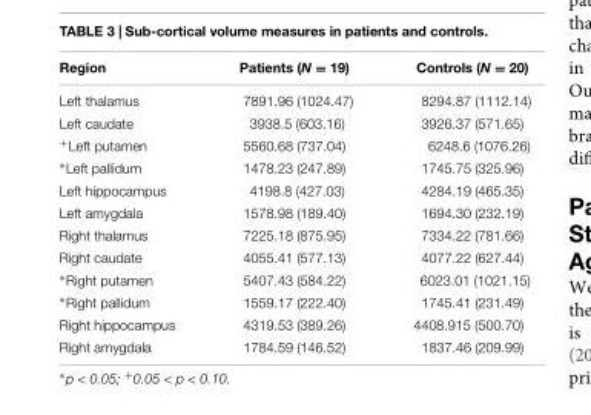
<table><thead><tr><td>Region</td><td>Patients (N = 19)</td><td>Controls (N = 20)</td></tr></thead><tbody><tr><td>Left thalamus</td><td>7891.96 (1024.47)</td><td>8294.87 (1112.14)</td></tr><tr><td>Left caudate</td><td>3938.5 (603.16)</td><td>3926.37 (571.65)</td></tr><tr><td><sup>+</sup>Left putamen</td><td>5560.68 (737.04)</td><td>6248.6 (1076.26)</td></tr><tr><td>∗Left pallidum</td><td>1478.23 (247.89)</td><td>1745.75 (325.96)</td></tr><tr><td>Left hippocampus</td><td>4198.8 (427.03)</td><td>4284.19 (465.35)</td></tr><tr><td>Left amygdala</td><td>1578.98 (189.40)</td><td>1694.30 (232.19)</td></tr><tr><td>Right thalamus</td><td>7225.18 (875.95)</td><td>7334.22 (781.66)</td></tr><tr><td>Right caudate</td><td>4055.41 (577.13)</td><td>4077.22 (627.44)</td></tr><tr><td>∗Right putamen</td><td>5407.43 (584.22)</td><td>6023.01 (1021.15)</td></tr><tr><td>∗Right pallidum</td><td>1559.17 (222.40)</td><td>1745.41 (231.49)</td></tr><tr><td>Right hippocampus</td><td>4319.53 (389.26)</td><td>4408.915 (500.70)</td></tr><tr><td>Right amygdala</td><td>1784.59 (146.52)</td><td>1837.46 (209.99)</td></tr></tbody></table>